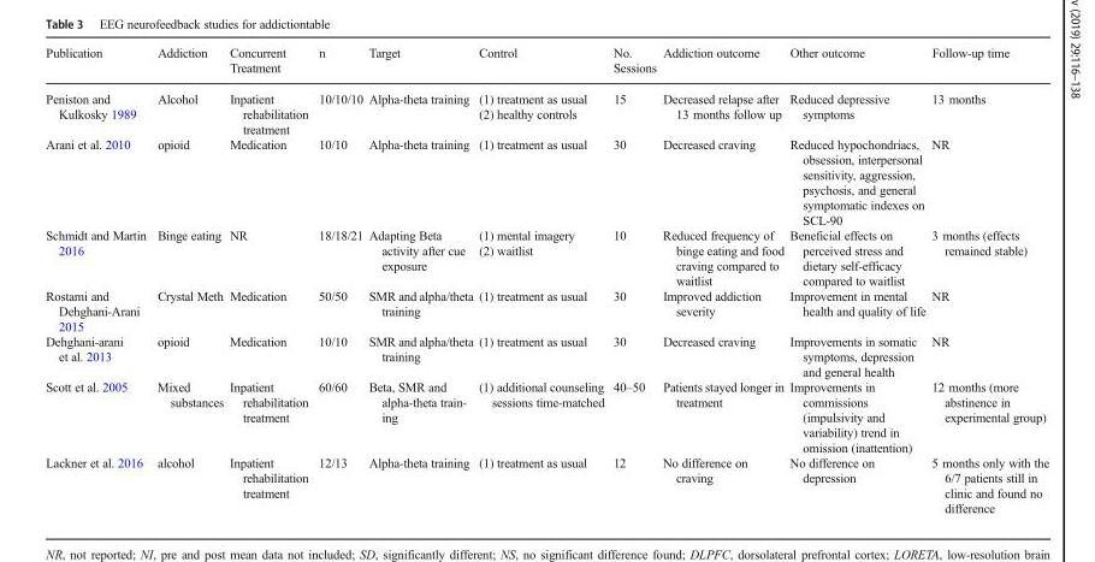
<table><thead><tr><td>Publication</td><td>Addiction</td><td>Concurrent Treatment</td><td>n</td><td>Target</td><td>Control</td><td>No. Sessions</td><td>Addiction outcome</td><td>Other outcome</td><td>Follow-up time</td></tr></thead><tbody><tr><td rowspan="2">Peniston and Kulkosky 1989</td><td rowspan="2">Alcohol</td><td rowspan="2">Inpatient rehabilitation treatment</td><td rowspan="2">10/10/10</td><td rowspan="2">Alpha-theta training</td><td>(1) treatment as usual</td><td rowspan="2">15</td><td rowspan="2">Decreased relapse after 13 months follow up</td><td rowspan="2">Reduced depressive symptoms</td><td rowspan="2">13 months</td></tr><tr><td>(2) healthy controls</td></tr><tr><td>Arani et al. 2010</td><td>opioid</td><td>Medication</td><td>10/10</td><td>Alpha-theta training</td><td>(1) treatment as usual</td><td>30</td><td>Decreased craving</td><td>Reduced hypochondriacs, obsession, interpersonal sensitivity, aggression, psychosis, and general symptomatic indexes on SCL-90</td><td>NR</td></tr><tr><td rowspan="2">Schmidt and Martin 2016</td><td rowspan="2">Binge eating</td><td rowspan="2">NR</td><td rowspan="2">18/18/21</td><td rowspan="2">Adapting Beta activity after cue exposure</td><td>(1) mental imagery</td><td rowspan="2">10</td><td rowspan="2">Reduced frequency of binge eating and food craving compared to waitlist</td><td rowspan="2">Beneficial effects on perceived stress and dietary self-efficacy compared to waitlist</td><td rowspan="2">3 months (effects remained stable)</td></tr><tr><td>(2) waitlist</td></tr><tr><td>Rostami and Dehghani-Arani 2015</td><td>Crystal Meth</td><td>Medication</td><td>50/50</td><td>SMR and alpha/theta training</td><td>(1) treatment as usual</td><td>30</td><td>Improved addiction severity</td><td>Improvement in mental health and quality of life</td><td>NR</td></tr><tr><td>Dehghani-arani et al. 2013</td><td>opioid</td><td>Medication</td><td>10/10</td><td>SMR and alpha/theta training</td><td>(1) treatment as usual</td><td>30</td><td>Decreased craving</td><td>Improvements in somatic symptoms, depression and general health</td><td>NR</td></tr><tr><td>Scott et al. 2005</td><td>Mixed substances</td><td>Inpatient rehabilitation treatment</td><td>60/60</td><td>Beta, SMR and alpha-theta train- ing</td><td>(1) additional counseling sessions time-matched</td><td>40–50</td><td>Patients stayed longer in treatment</td><td>Improvements in commissions (impulsivity and variability) trend in omission (inattention)</td><td>12 months (more abstinence in experimental group)</td></tr><tr><td>Lackner et al. 2016</td><td>alcohol</td><td>Inpatient rehabilitation treatment</td><td>12/13</td><td>Alpha-theta training</td><td>(1) treatment as usual</td><td>12</td><td>No difference on craving</td><td>No difference on depression</td><td>5 months only with the 6/7 patients still in clinic and found no difference</td></tr></tbody></table>